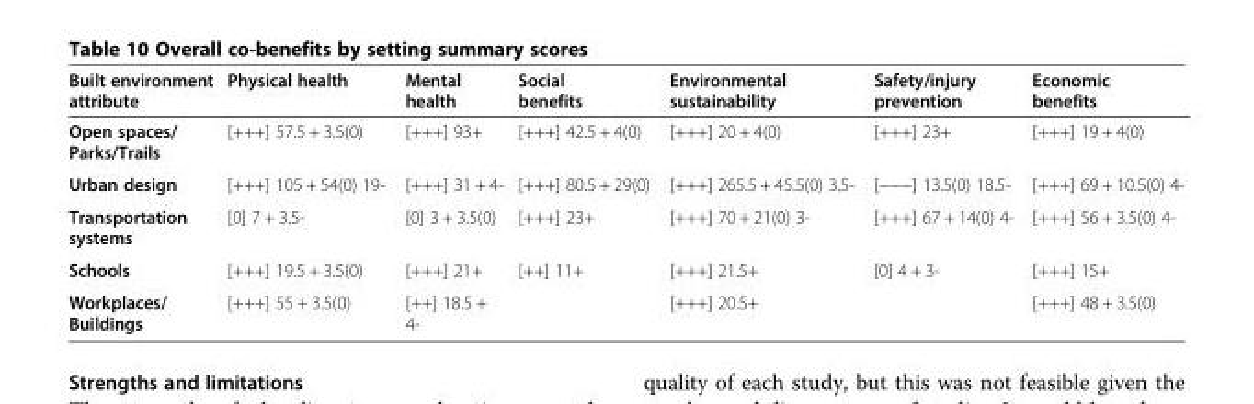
<table><thead><tr><td>Built environment attribute</td><td>Physical health</td><td>Mental health</td><td>Social benefits</td><td>Environmental sustainability</td><td>Safety/injury prevention</td><td>Economic benefits</td></tr></thead><tbody><tr><td>Open spaces/ Parks/Trails</td><td>[+++] 57.5 + 3.5(0)</td><td>[+++] 93+</td><td>[+++] 42.5 + 4(0)</td><td>[+++] 20 + 4(0)</td><td>[+++] 23+</td><td>[+++] 19 + 4(0)</td></tr><tr><td>Urban design</td><td>[+++] 105 + 54(0) 19-</td><td>[+++] 31 + 4-</td><td>[+++] 80.5 + 29(0)</td><td>[+++] 265.5 + 45.5(0) 3.5-</td><td>[−−−] 13.5(0) 18.5-</td><td>[+++] 69 + 10.5(0) 4-</td></tr><tr><td>Transportation systems</td><td>[0] 7 + 3.5-</td><td>[0] 3 + 3.5(0)</td><td>[+++] 23+</td><td>[+++] 70 + 21(0) 3-</td><td>[+++] 67 + 14(0) 4-</td><td>[+++] 56 + 3.5(0) 4-</td></tr><tr><td>Schools</td><td>[+++] 19.5 + 3.5(0)</td><td>[+++] 21+</td><td>[++] 11+</td><td>[+++] 21.5+</td><td>[0] 4 + 3-</td><td>[+++] 15+</td></tr><tr><td>Workplaces/ Buildings</td><td>[+++] 55 + 3.5(0)</td><td>[++] 18.5 + 4-</td><td></td><td>[+++] 20.5+</td><td></td><td>[+++] 48 + 3.5(0)</td></tr></tbody></table>